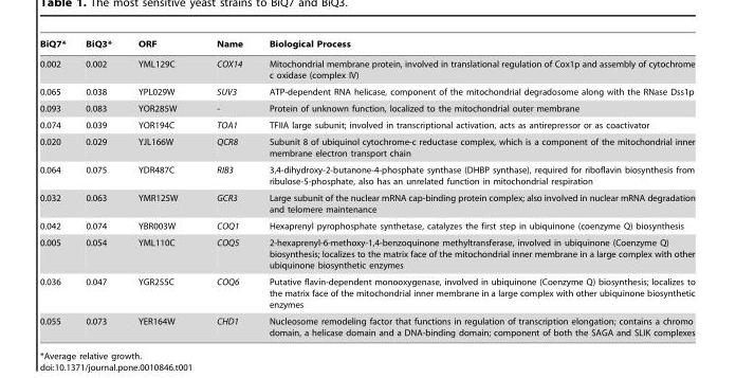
<table><thead><tr><td>BiQ7*</td><td>BiQ3*</td><td>ORF</td><td>Name</td><td>Biological Process</td></tr></thead><tbody><tr><td>0.002</td><td>0.002</td><td>YML129C</td><td>COX14</td><td>Mitochondrial membrane protein, involved in translational regulation of Cox1p and assembly of cytochrome c oxidase (complex IV)</td></tr><tr><td>0.065</td><td>0.038</td><td>YPL029W</td><td>SUV3</td><td>ATP-dependent RNA helicase, component of the mitochondrial degradosome along with the RNase Dss1p</td></tr><tr><td>0.093</td><td>0.083</td><td>YOR285W</td><td>-</td><td>Protein of unknown function, localized to the mitochondrial outer membrane</td></tr><tr><td>0.074</td><td>0.039</td><td>YOR194C</td><td>TOA1</td><td>TFIIA large subunit; involved in transcriptional activation, acts as antirepressor or as coactivator</td></tr><tr><td>0.020</td><td>0.029</td><td>YJL166W</td><td>QCR8</td><td>Subunit 8 of ubiquinol cytochrome-c reductase complex, which is a component of the mitochondrial inner membrane electron transport chain</td></tr><tr><td>0.064</td><td>0.075</td><td>YDR487C</td><td>RIB3</td><td>3,4-dihydroxy-2-butanone-4-phosphate synthase (DHBP synthase), required for riboflavin biosynthesis from ribulose-5-phosphate, also has an unrelated function in mitochondrial respiration</td></tr><tr><td>0.032</td><td>0.063</td><td>YMR125W</td><td>GCR3</td><td>Large subunit of the nuclear mRNA cap-binding protein complex; also involved in nuclear mRNA degradation and telomere maintenance</td></tr><tr><td>0.042</td><td>0.074</td><td>YBR003W</td><td>COQ1</td><td>Hexaprenyl pyrophosphate synthetase, catalyzes the first step in ubiquinone (coenzyme Q) biosynthesis</td></tr><tr><td>0.005</td><td>0.054</td><td>YML110C</td><td>COQ5</td><td>2-hexaprenyl-6-methoxy-1,4-benzoquinone methyltransferase, involved in ubiquinone (Coenzyme Q) biosynthesis; localizes to the matrix face of the mitochondrial inner membrane in a large complex with other ubiquinone biosynthetic enzymes</td></tr><tr><td>0.036</td><td>0.047</td><td>YGR255C</td><td>COQ6</td><td>Putative flavin-dependent monooxygenase, involved in ubiquinone (Coenzyme Q) biosynthesis; localizes to the matrix face of the mitochondrial inner membrane in a large complex with other ubiquinone biosynthetic enzymes</td></tr><tr><td>0.055</td><td>0.073</td><td>YER164W</td><td>CHD1</td><td>Nucleosome remodeling factor that functions in regulation of transcription elongation; contains a chromo domain, a helicase domain and a DNA-binding domain; component of both the SAGA and SLIK complexes</td></tr></tbody></table>